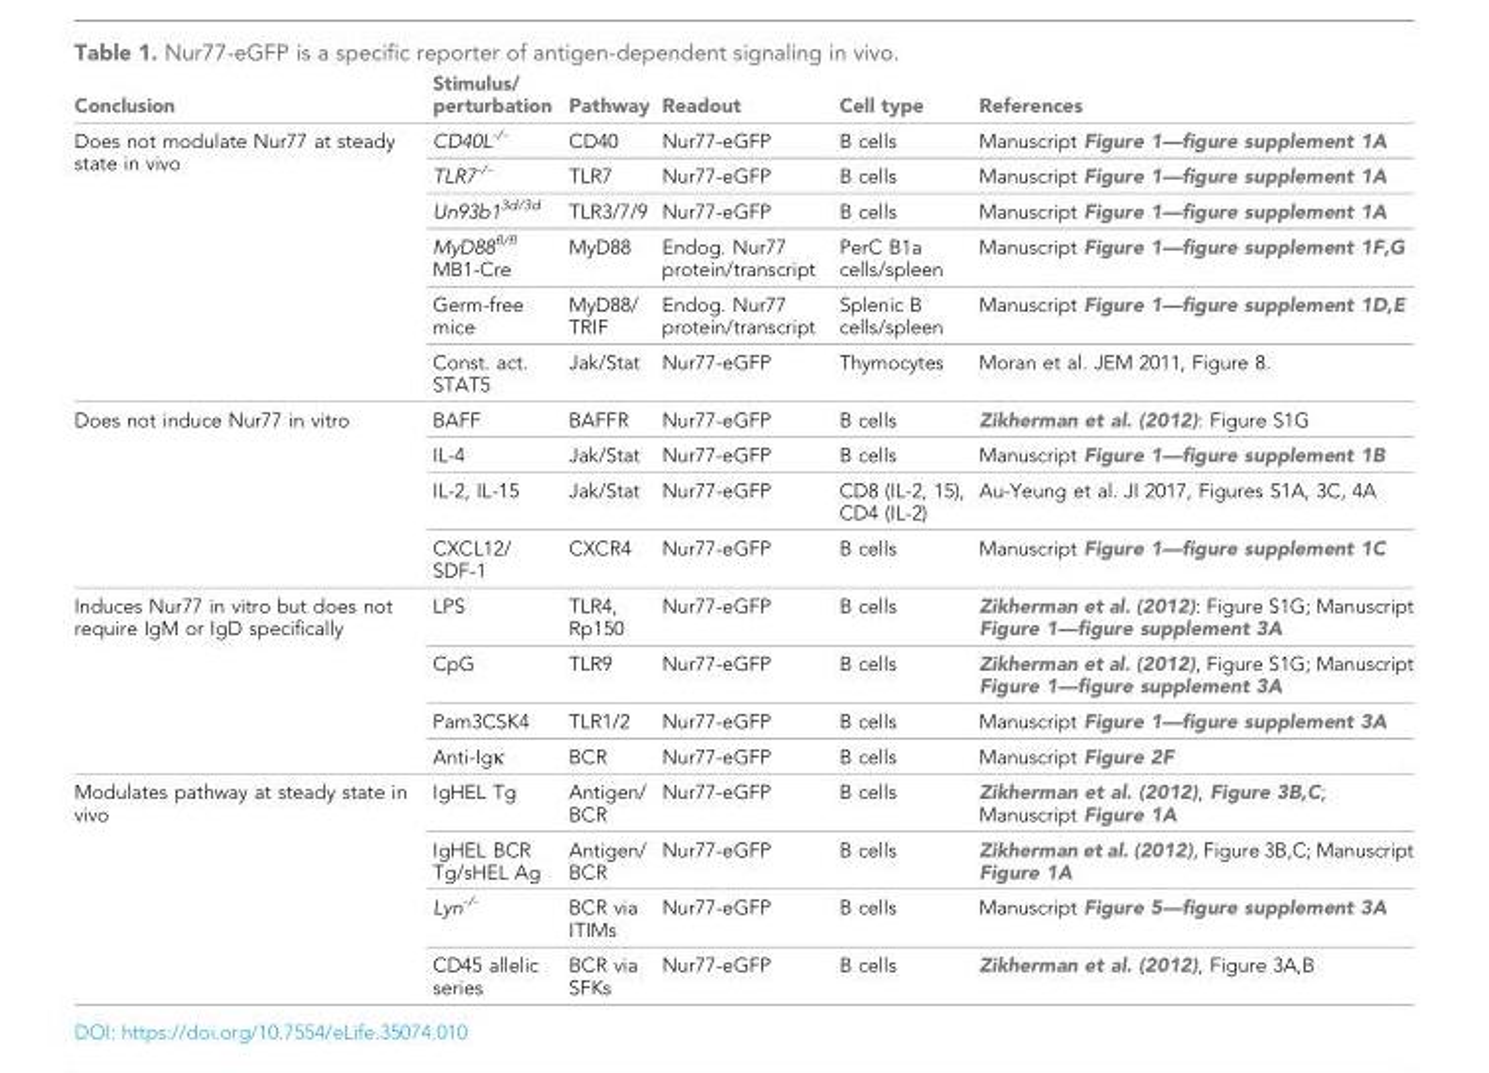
<table><thead><tr><td>Conclusion</td><td>Stimulus/ perturbation</td><td>Pathway</td><td>Readout</td><td>Cell type</td><td>References</td></tr></thead><tbody><tr><td rowspan="6">Does not modulate Nur77 at steady state in vivo</td><td>CD40L<sup>-/-</sup></td><td>CD40</td><td>Nur77-eGFP</td><td>B cells</td><td>Manuscript Figure 1—figure supplement 1A</td></tr><tr><td>TLR7<sup>-/-</sup></td><td>TLR7</td><td>Nur77-eGFP</td><td>B cells</td><td>Manuscript Figure 1—figure supplement 1A</td></tr><tr><td>Un93b1<sup>3d/3d</sup></td><td>TLR3/7/9</td><td>Nur77-eGFP</td><td>B cells</td><td>Manuscript Figure 1—figure supplement 1A</td></tr><tr><td>MyD88<sup>fl/fl</sup> MB1-Cre</td><td>MyD88</td><td>Endog. Nur77 protein/transcript</td><td>PerC B1a cells/spleen</td><td>Manuscript Figure 1—figure supplement 1F,G</td></tr><tr><td>Germ-free mice</td><td>MyD88/ TRIF</td><td>Endog. Nur77 protein/transcript</td><td>Splenic B cells/spleen</td><td>Manuscript Figure 1—figure supplement 1D,E</td></tr><tr><td>Const. act. STAT5</td><td>Jak/Stat</td><td>Nur77-eGFP</td><td>Thymocytes</td><td>Moran et al. JEM 2011, Figure 8.</td></tr><tr><td rowspan="4">Does not induce Nur77 in vitro</td><td>BAFF</td><td>BAFFR</td><td>Nur77-eGFP</td><td>B cells</td><td>Zikherman et al. (2012): Figure S1G</td></tr><tr><td>IL-4</td><td>Jak/Stat</td><td>Nur77-eGFP</td><td>B cells</td><td>Manuscript Figure 1—figure supplement 1B</td></tr><tr><td>IL-2, IL-15</td><td>Jak/Stat</td><td>Nur77-eGFP</td><td>CD8 (IL-2, 15), CD4 (IL-2)</td><td>Au-Yeung et al. JI 2017, Figures S1A, 3C, 4A</td></tr><tr><td>CXCL12/ SDF-1</td><td>CXCR4</td><td>Nur77-eGFP</td><td>B cells</td><td>Manuscript Figure 1—figure supplement 1C</td></tr><tr><td rowspan="4">Induces Nur77 in vitro but does not require IgM or IgD specifically</td><td>LPS</td><td>TLR4, Rp150</td><td>Nur77-eGFP</td><td>B cells</td><td>Zikherman et al. (2012): Figure S1G; Manuscript Figure 1—figure supplement 3A</td></tr><tr><td>CpG</td><td>TLR9</td><td>Nur77-eGFP</td><td>B cells</td><td>Zikherman et al. (2012), Figure S1G; Manuscript Figure 1—figure supplement 3A</td></tr><tr><td>Pam3CSK4</td><td>TLR1/2</td><td>Nur77-eGFP</td><td>B cells</td><td>Manuscript Figure 1—figure supplement 3A</td></tr><tr><td>Anti-Igκ</td><td>BCR</td><td>Nur77-eGFP</td><td>B cells</td><td>Manuscript Figure 2F</td></tr><tr><td rowspan="4">Modulates pathway at steady state in vivo</td><td>IgHEL Tg</td><td>Antigen/ BCR</td><td>Nur77-eGFP</td><td>B cells</td><td>Zikherman et al. (2012), Figure 3B,C; Manuscript Figure 1A</td></tr><tr><td>IgHEL BCR Tg/sHEL Ag</td><td>Antigen/ BCR</td><td>Nur77-eGFP</td><td>B cells</td><td>Zikherman et al. (2012), Figure 3B,C; Manuscript Figure 1A</td></tr><tr><td>Lyn<sup>-/-</sup></td><td>BCR via ITIMs</td><td>Nur77-eGFP</td><td>B cells</td><td>Manuscript Figure 5—figure supplement 3A</td></tr><tr><td>CD45 allelic series</td><td>BCR via SFKs</td><td>Nur77-eGFP</td><td>B cells</td><td>Zikherman et al. (2012), Figure 3A,B</td></tr></tbody></table>